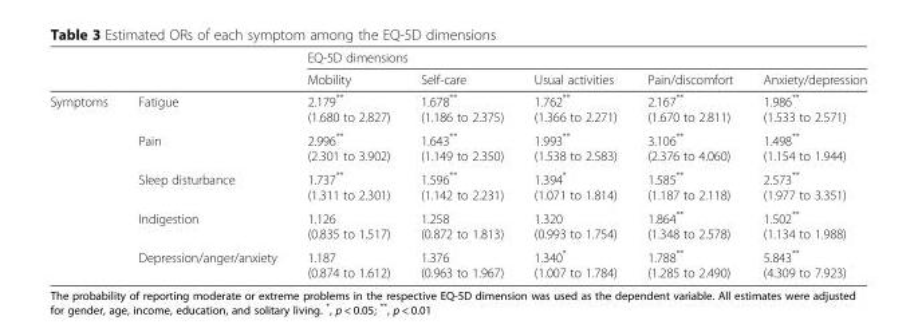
<table><thead><tr><td rowspan="2"></td><td rowspan="2"></td><td colspan="5">EQ-5D dimensions</td></tr><tr><td>Mobility</td><td>Self-care</td><td>Usual activities</td><td>Pain/discomfort</td><td>Anxiety/depression</td></tr></thead><tbody><tr><td rowspan="5">Symptoms</td><td>Fatigue</td><td>2.179** (1.680 to 2.827)</td><td>1.678** (1.186 to 2.375)</td><td>1.762** (1.366 to 2.271)</td><td>2.167** (1.670 to 2.811)</td><td>1.986** (1.533 to 2.571)</td></tr><tr><td>Pain</td><td>2.996** (2.301 to 3.902)</td><td>1.643** (1.149 to 2.350)</td><td>1.993** (1.538 to 2.583)</td><td>3.106** (2.376 to 4.060)</td><td>1.498** (1.154 to 1.944)</td></tr><tr><td>Sleep disturbance</td><td>1.737** (1.311 to 2.301)</td><td>1.596** (1.142 to 2.231)</td><td>1.394* (1.071 to 1.814)</td><td>1.585** (1.187 to 2.118)</td><td>2.573** (1.977 to 3.351)</td></tr><tr><td>Indigestion</td><td>1.126 (0.835 to 1.517)</td><td>1.258 (0.872 to 1.813)</td><td>1.320 (0.993 to 1.754)</td><td>1.864** (1.348 to 2.578)</td><td>1.502** (1.134 to 1.988)</td></tr><tr><td>Depression/anger/anxiety</td><td>1.187 (0.874 to 1.612)</td><td>1.376 (0.963 to 1.967)</td><td>1.340* (1.007 to 1.784)</td><td>1.788** (1.285 to 2.490)</td><td>5.843** (4.309 to 7.923)</td></tr></tbody></table>